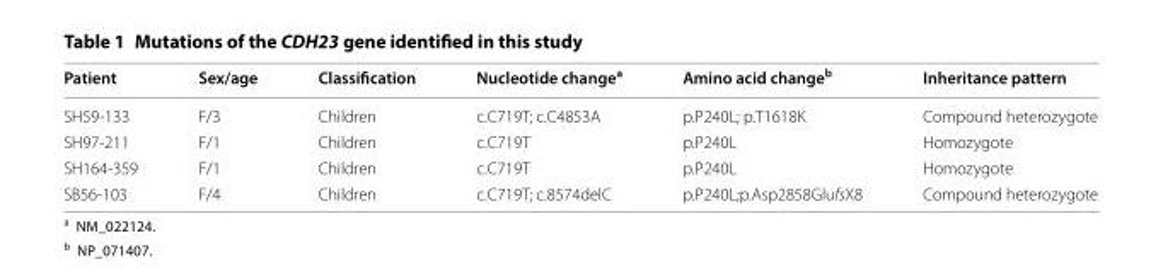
<table><thead><tr><td>Patient</td><td>Sex/age</td><td>Classification</td><td>Nucleotide change<sup>a</sup></td><td>Amino acid change<sup>b</sup></td><td>Inheritance pattern</td></tr></thead><tbody><tr><td>SH59‑133</td><td>F/3</td><td>Children</td><td>c.C719T; c.C4853A</td><td>p.P240L; p.T1618K</td><td>Compound heterozygote</td></tr><tr><td>SH97‑211</td><td>F/1</td><td>Children</td><td>c.C719T</td><td>p.P240L</td><td>Homozygote</td></tr><tr><td>SH164‑359</td><td>F/1</td><td>Children</td><td>c.C719T</td><td>p.P240L</td><td>Homozygote</td></tr><tr><td>SB56‑103</td><td>F/4</td><td>Children</td><td>c.C719T; c.8574delC</td><td>p.P240L;p.Asp2858GlufsX8</td><td>Compound heterozygote</td></tr></tbody></table>